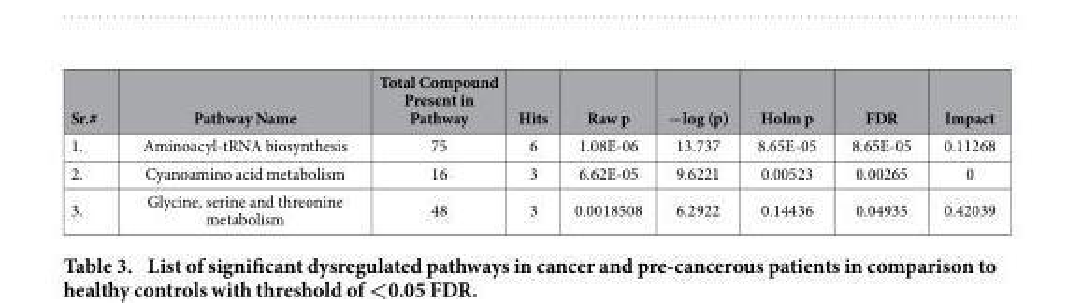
<table><thead><tr><td>Sr.#</td><td>Pathway Name</td><td>Total Compound Present in Pathway</td><td>Hits</td><td>Raw p</td><td>−log (p)</td><td>Holm p</td><td>FDR</td><td>Impact</td></tr></thead><tbody><tr><td>1.</td><td>Aminoacyl-tRNA biosynthesis</td><td>75</td><td>6</td><td>1.08E-06</td><td>13.737</td><td>8.65E-05</td><td>8.65E-05</td><td>0.11268</td></tr><tr><td>2.</td><td>Cyanoamino acid metabolism</td><td>16</td><td>3</td><td>6.62E-05</td><td>9.6221</td><td>0.00523</td><td>0.00265</td><td>0</td></tr><tr><td>3.</td><td>Glycine, serine and threonine metabolism</td><td>48</td><td>3</td><td>0.0018508</td><td>6.2922</td><td>0.14436</td><td>0.04935</td><td>0.42039</td></tr></tbody></table>